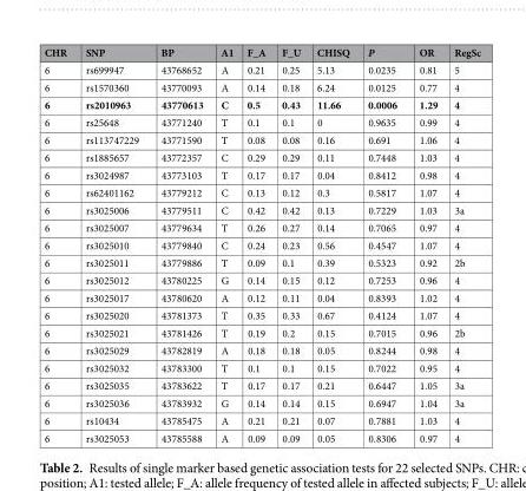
<table><thead><tr><td>CHR</td><td>SNP</td><td>BP</td><td>A1</td><td>F_A</td><td>F_U</td><td>CHISQ</td><td>P</td><td>OR</td><td>RegSc</td></tr></thead><tbody><tr><td>6</td><td>rs699947</td><td>43768652</td><td>A</td><td>0.21</td><td>0.25</td><td>5.13</td><td>0.0235</td><td>0.81</td><td>5</td></tr><tr><td>6</td><td>rs1570360</td><td>43770093</td><td>A</td><td>0.14</td><td>0.18</td><td>6.24</td><td>0.0125</td><td>0.77</td><td>4</td></tr><tr><td>6</td><td>rs2010963</td><td>43770613</td><td>C</td><td>0.5</td><td>0.43</td><td>11.66</td><td>0.0006</td><td>1.29</td><td>4</td></tr><tr><td>6</td><td>rs25648</td><td>43771240</td><td>T</td><td>0.1</td><td>0.1</td><td>0</td><td>0.9635</td><td>0.99</td><td>4</td></tr><tr><td>6</td><td>rs113747229</td><td>43771590</td><td>T</td><td>0.08</td><td>0.08</td><td>0.16</td><td>0.691</td><td>1.06</td><td>4</td></tr><tr><td>6</td><td>rs1885657</td><td>43772357</td><td>C</td><td>0.29</td><td>0.29</td><td>0.11</td><td>0.7448</td><td>1.03</td><td>4</td></tr><tr><td>6</td><td>rs3024987</td><td>43773103</td><td>T</td><td>0.17</td><td>0.17</td><td>0.04</td><td>0.8412</td><td>0.98</td><td>4</td></tr><tr><td>6</td><td>rs62401162</td><td>43779212</td><td>C</td><td>0.13</td><td>0.12</td><td>0.3</td><td>0.5817</td><td>1.07</td><td>4</td></tr><tr><td>6</td><td>rs3025006</td><td>43779511</td><td>C</td><td>0.42</td><td>0.42</td><td>0.13</td><td>0.7229</td><td>1.03</td><td>3a</td></tr><tr><td>6</td><td>rs3025007</td><td>43779634</td><td>T</td><td>0.26</td><td>0.27</td><td>0.14</td><td>0.7065</td><td>0.97</td><td>4</td></tr><tr><td>6</td><td>rs3025010</td><td>43779840</td><td>C</td><td>0.24</td><td>0.23</td><td>0.56</td><td>0.4547</td><td>1.07</td><td>4</td></tr><tr><td>6</td><td>rs3025011</td><td>43779886</td><td>T</td><td>0.09</td><td>0.1</td><td>0.39</td><td>0.5323</td><td>0.92</td><td>2b</td></tr><tr><td>6</td><td>rs3025012</td><td>43780225</td><td>G</td><td>0.14</td><td>0.15</td><td>0.12</td><td>0.7253</td><td>0.96</td><td>4</td></tr><tr><td>6</td><td>rs3025017</td><td>43780620</td><td>A</td><td>0.12</td><td>0.11</td><td>0.04</td><td>0.8393</td><td>1.02</td><td>4</td></tr><tr><td>6</td><td>rs3025020</td><td>43781373</td><td>T</td><td>0.35</td><td>0.33</td><td>0.67</td><td>0.4124</td><td>1.07</td><td>4</td></tr><tr><td>6</td><td>rs3025021</td><td>43781426</td><td>T</td><td>0.19</td><td>0.2</td><td>0.15</td><td>0.7015</td><td>0.96</td><td>2b</td></tr><tr><td>6</td><td>rs3025029</td><td>43782819</td><td>A</td><td>0.18</td><td>0.18</td><td>0.05</td><td>0.8244</td><td>0.98</td><td>4</td></tr><tr><td>6</td><td>rs3025032</td><td>43783300</td><td>T</td><td>0.1</td><td>0.1</td><td>0.15</td><td>0.7022</td><td>0.95</td><td>4</td></tr><tr><td>6</td><td>rs3025035</td><td>43783622</td><td>T</td><td>0.17</td><td>0.17</td><td>0.21</td><td>0.6447</td><td>1.05</td><td>3a</td></tr><tr><td>6</td><td>rs3025036</td><td>43783932</td><td>G</td><td>0.14</td><td>0.14</td><td>0.15</td><td>0.6947</td><td>1.04</td><td>3a</td></tr><tr><td>6</td><td>rs10434</td><td>43785475</td><td>A</td><td>0.21</td><td>0.21</td><td>0.07</td><td>0.7881</td><td>1.03</td><td>4</td></tr><tr><td>6</td><td>rs3025053</td><td>43785588</td><td>A</td><td>0.09</td><td>0.09</td><td>0.05</td><td>0.8306</td><td>0.97</td><td>4</td></tr></tbody></table>